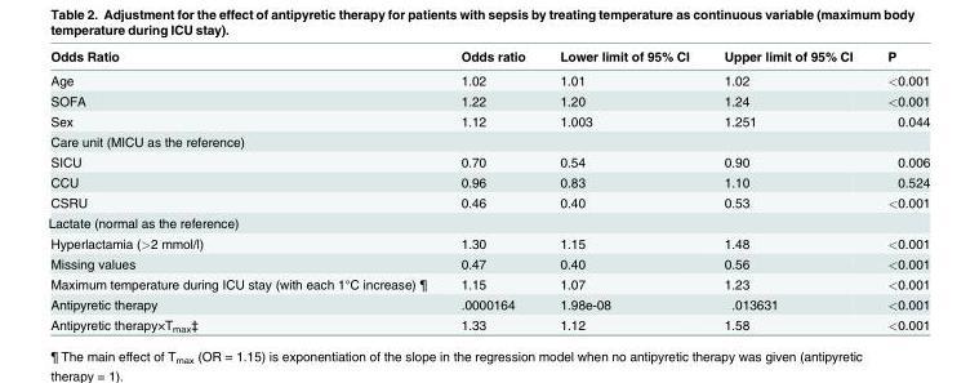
<table><thead><tr><td>Odds Ratio</td><td>Odds ratio</td><td>Lower limit of 95% CI</td><td>Upper limit of 95% CI</td><td>P</td></tr></thead><tbody><tr><td>Age</td><td>1.02</td><td>1.01</td><td>1.02</td><td>&lt;0.001</td></tr><tr><td>SOFA</td><td>1.22</td><td>1.20</td><td>1.24</td><td>&lt;0.001</td></tr><tr><td>Sex</td><td>1.12</td><td>1.003</td><td>1.251</td><td>0.044</td></tr><tr><td colspan="5">Care unit (MICU as the reference)</td></tr><tr><td>SICU</td><td>0.70</td><td>0.54</td><td>0.90</td><td>0.006</td></tr><tr><td>CCU</td><td>0.96</td><td>0.83</td><td>1.10</td><td>0.524</td></tr><tr><td>CSRU</td><td>0.46</td><td>0.40</td><td>0.53</td><td>&lt;0.001</td></tr><tr><td colspan="5">Lactate (normal as the reference)</td></tr><tr><td>Hyperlactamia (&gt;2 mmol/l)</td><td>1.30</td><td>1.15</td><td>1.48</td><td>&lt;0.001</td></tr><tr><td>Missing values</td><td>0.47</td><td>0.40</td><td>0.56</td><td>&lt;0.001</td></tr><tr><td>Maximum temperature during ICU stay (with each 1°C increase) ¶</td><td>1.15</td><td>1.07</td><td>1.23</td><td>&lt;0.001</td></tr><tr><td>Antipyretic therapy</td><td>.0000164</td><td>1.98e-08</td><td>.013631</td><td>&lt;0.001</td></tr><tr><td>Antipyretic therapy×T<sub>max</sub>‡</td><td>1.33</td><td>1.12</td><td>1.58</td><td>&lt;0.001</td></tr></tbody></table>